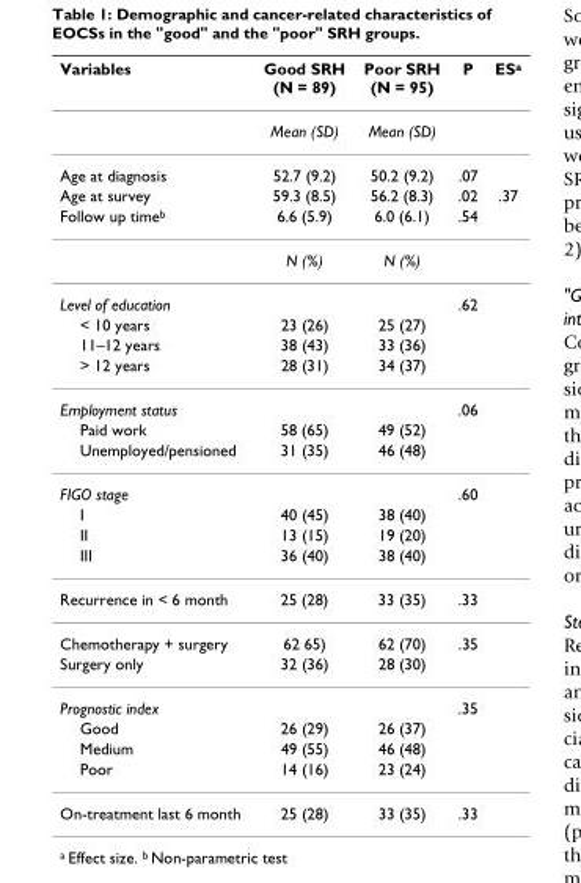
<table><thead><tr><td>Variables</td><td>Good SRH (N = 89)</td><td>Poor SRH (N = 95)</td><td>P</td><td>ES<sup>a</sup></td></tr></thead><tbody><tr><td></td><td>Mean (SD)</td><td>Mean (SD)</td><td></td><td></td></tr><tr><td>Age at diagnosis</td><td>52.7 (9.2)</td><td>50.2 (9.2)</td><td>.07</td><td></td></tr><tr><td>Age at survey</td><td>59.3 (8.5)</td><td>56.2 (8.3)</td><td>.02</td><td>.37</td></tr><tr><td rowspan="2">Follow up time<sup>b</sup></td><td>6.6 (5.9)</td><td>6.0 (6.1)</td><td>.54</td><td></td></tr><tr><td>N (%)</td><td>N (%)</td><td></td><td></td></tr><tr><td>Level of education</td><td></td><td></td><td>.62</td><td></td></tr><tr><td>&lt; 10 years</td><td>23 (26)</td><td>25 (27)</td><td></td><td></td></tr><tr><td>11–12 years</td><td>38 (43)</td><td>33 (36)</td><td></td><td></td></tr><tr><td>&gt; 12 years</td><td>28 (31)</td><td>34 (37)</td><td></td><td></td></tr><tr><td>Employment status</td><td></td><td></td><td>.06</td><td></td></tr><tr><td>Paid work</td><td>58 (65)</td><td>49 (52)</td><td></td><td></td></tr><tr><td>Unemployed/pensioned</td><td>31 (35)</td><td>46 (48)</td><td></td><td></td></tr><tr><td>FIGO stage</td><td></td><td></td><td>.60</td><td></td></tr><tr><td>I</td><td>40 (45)</td><td>38 (40)</td><td></td><td></td></tr><tr><td>II</td><td>13 (15)</td><td>19 (20)</td><td></td><td></td></tr><tr><td>III</td><td>36 (40)</td><td>38 (40)</td><td></td><td></td></tr><tr><td>Recurrence in &lt; 6 month</td><td>25 (28)</td><td>33 (35)</td><td>.33</td><td></td></tr><tr><td>Chemotherapy + surgery</td><td>62 65)</td><td>62 (70)</td><td>.35</td><td></td></tr><tr><td>Surgery only</td><td>32 (36)</td><td>28 (30)</td><td></td><td></td></tr><tr><td>Prognostic index</td><td></td><td></td><td>.35</td><td></td></tr><tr><td>Good</td><td>26 (29)</td><td>26 (37)</td><td></td><td></td></tr><tr><td>Medium</td><td>49 (55)</td><td>46 (48)</td><td></td><td></td></tr><tr><td>Poor</td><td>14 (16)</td><td>23 (24)</td><td></td><td></td></tr><tr><td>On-treatment last 6 month</td><td>25 (28)</td><td>33 (35)</td><td>.33</td><td></td></tr></tbody></table>